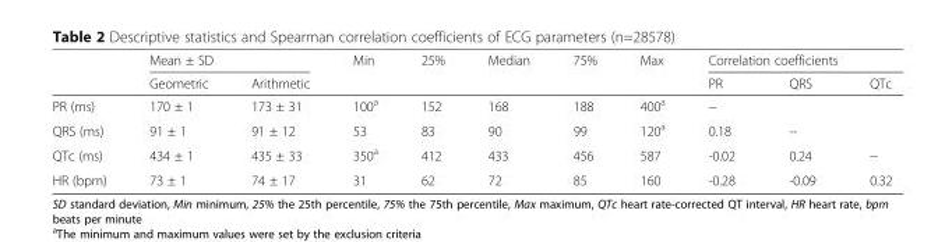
<table><thead><tr><td rowspan="2"></td><td colspan="2">Mean ± SD</td><td rowspan="2">Min</td><td rowspan="2">25%</td><td rowspan="2">Median</td><td rowspan="2">75%</td><td rowspan="2">Max</td><td colspan="3">Correlation coefficients</td></tr><tr><td>Geometric</td><td>Arithmetic</td><td>PR</td><td>QRS</td><td>QTc</td></tr></thead><tbody><tr><td>PR (ms)</td><td>170 ± 1</td><td>173 ± 31</td><td>100<sup>a</sup></td><td>152</td><td>168</td><td>188</td><td>400<sup>a</sup></td><td>--</td><td></td><td></td></tr><tr><td>QRS (ms)</td><td>91 ± 1</td><td>91 ± 12</td><td>53</td><td>83</td><td>90</td><td>99</td><td>120<sup>a</sup></td><td>0.18</td><td>--</td><td></td></tr><tr><td>QTc (ms)</td><td>434 ± 1</td><td>435 ± 33</td><td>350<sup>a</sup></td><td>412</td><td>433</td><td>456</td><td>587</td><td>-0.02</td><td>0.24</td><td>--</td></tr><tr><td>HR (bpm)</td><td>73 ± 1</td><td>74 ± 17</td><td>31</td><td>62</td><td>72</td><td>85</td><td>160</td><td>-0.28</td><td>-0.09</td><td>0.32</td></tr></tbody></table>